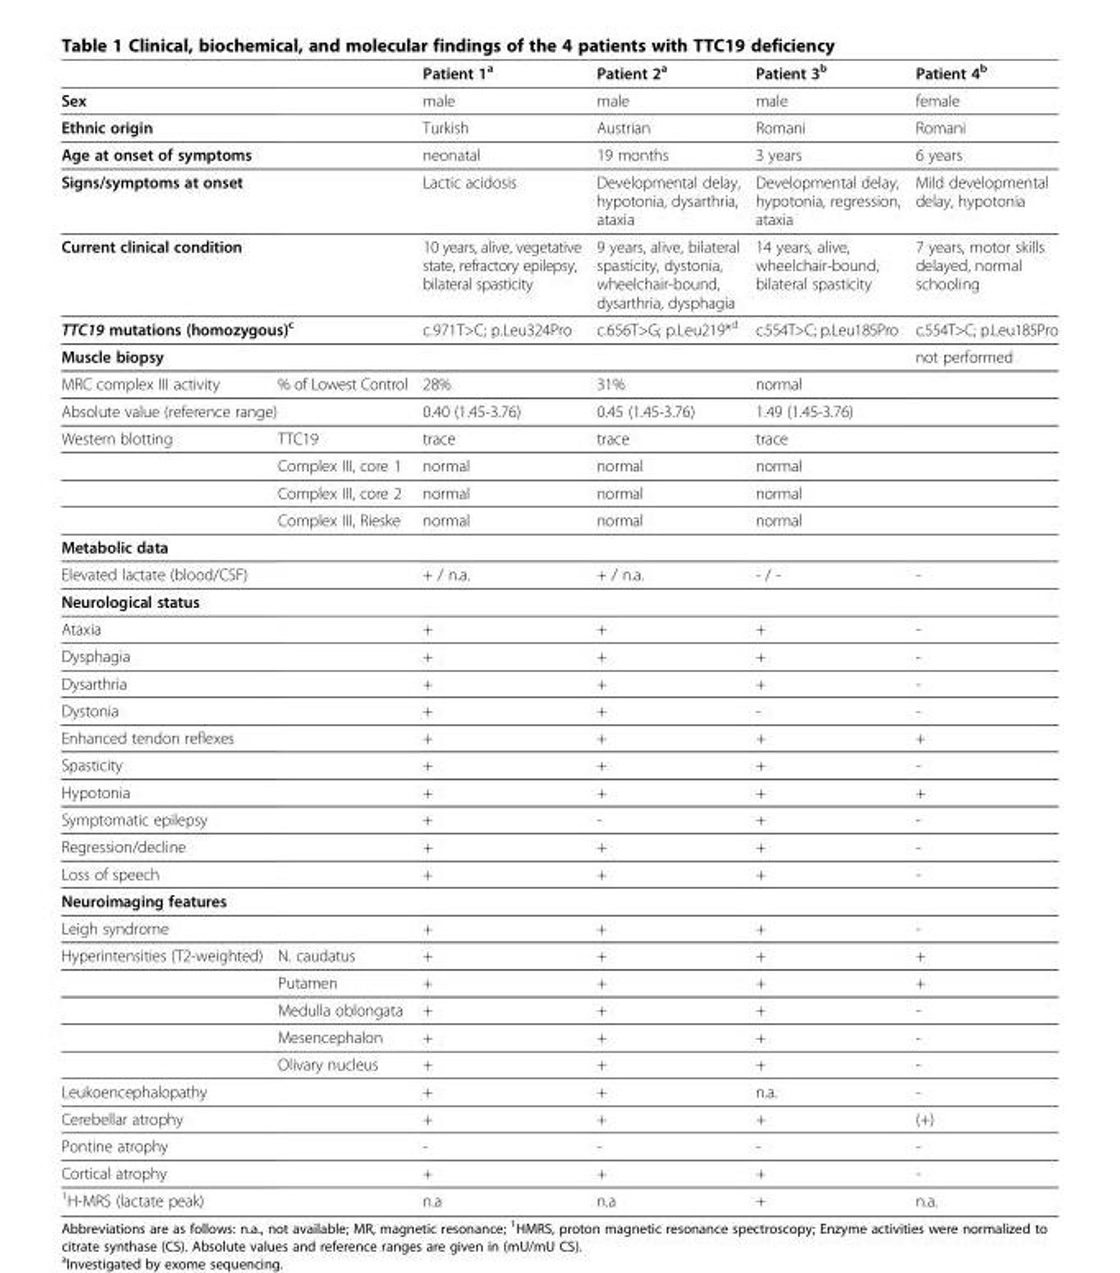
<table><thead><tr><td></td><td></td><td>Patient 1<sup>a</sup></td><td>Patient 2<sup>a</sup></td><td>Patient 3<sup>b</sup></td><td>Patient 4<sup>b</sup></td></tr></thead><tbody><tr><td>Sex</td><td></td><td>male</td><td>male</td><td>male</td><td>female</td></tr><tr><td>Ethnic origin</td><td></td><td>Turkish</td><td>Austrian</td><td>Romani</td><td>Romani</td></tr><tr><td colspan="2">Age at onset of symptoms</td><td>neonatal</td><td>19 months</td><td>3 years</td><td>6 years</td></tr><tr><td>Signs/symptoms at onset</td><td></td><td>Lactic acidosis</td><td>Developmental delay, hypotonia, dysarthria, ataxia</td><td>Developmental delay, hypotonia, regression, ataxia</td><td>Mild developmental delay, hypotonia</td></tr><tr><td>Current clinical condition</td><td></td><td>10 years, alive, vegetative state, refractory epilepsy, bilateral spasticity</td><td>9 years, alive, bilateral spasticity, dystonia, wheelchair-bound, dysarthria, dysphagia</td><td>14 years, alive, wheelchair-bound, bilateral spasticity</td><td>7 years, motor skills delayed, normal schooling</td></tr><tr><td colspan="2">TTC19 mutations (homozygous)<sup>c</sup></td><td>c.971T&gt;C; p.Leu324Pro</td><td>c.656T&gt;G; p.Leu219*<sup>d</sup></td><td>c.554T&gt;C; p.Leu185Pro</td><td>c.554T&gt;C; p.Leu185Pro</td></tr><tr><td>Muscle biopsy</td><td></td><td></td><td></td><td></td><td>not performed</td></tr><tr><td>MRC complex III activity</td><td>% of Lowest Control</td><td>28%</td><td>31%</td><td>normal</td><td></td></tr><tr><td colspan="2">Absolute value (reference range)</td><td>0.40 (1.45-3.76)</td><td>0.45 (1.45-3.76)</td><td>1.49 (1.45-3.76)</td><td></td></tr><tr><td rowspan="4">Western blotting</td><td>TTC19</td><td>trace</td><td>trace</td><td>trace</td><td></td></tr><tr><td>Complex III, core 1</td><td>normal</td><td>normal</td><td>normal</td><td></td></tr><tr><td>Complex III, core 2</td><td>normal</td><td>normal</td><td>normal</td><td></td></tr><tr><td>Complex III, Rieske</td><td>normal</td><td>normal</td><td>normal</td><td></td></tr><tr><td colspan="6">Metabolic data</td></tr><tr><td colspan="2">Elevated lactate (blood/CSF)</td><td>+ / n.a.</td><td>+ / n.a.</td><td>- / -</td><td>-</td></tr><tr><td colspan="6">Neurological status</td></tr><tr><td>Ataxia</td><td></td><td>+</td><td>+</td><td>+</td><td>-</td></tr><tr><td>Dysphagia</td><td></td><td>+</td><td>+</td><td>+</td><td>-</td></tr><tr><td>Dysarthria</td><td></td><td>+</td><td>+</td><td>+</td><td>-</td></tr><tr><td>Dystonia</td><td></td><td>+</td><td>+</td><td>-</td><td>-</td></tr><tr><td>Enhanced tendon reflexes</td><td></td><td>+</td><td>+</td><td>+</td><td>+</td></tr><tr><td>Spasticity</td><td></td><td>+</td><td>+</td><td>+</td><td>-</td></tr><tr><td>Hypotonia</td><td></td><td>+</td><td>+</td><td>+</td><td>+</td></tr><tr><td>Symptomatic epilepsy</td><td></td><td>+</td><td>-</td><td>+</td><td>-</td></tr><tr><td>Regression/decline</td><td></td><td>+</td><td>+</td><td>+</td><td>-</td></tr><tr><td>Loss of speech</td><td></td><td>+</td><td>+</td><td>+</td><td>-</td></tr><tr><td colspan="6">Neuroimaging features</td></tr><tr><td>Leigh syndrome</td><td></td><td>+</td><td>+</td><td>+</td><td>-</td></tr><tr><td rowspan="5">Hyperintensities (T2-weighted)</td><td>N. caudatus</td><td>+</td><td>+</td><td>+</td><td>+</td></tr><tr><td>Putamen</td><td>+</td><td>+</td><td>+</td><td>+</td></tr><tr><td>Medulla oblongata</td><td>+</td><td>+</td><td>+</td><td>-</td></tr><tr><td>Mesencephalon</td><td>+</td><td>+</td><td>+</td><td>-</td></tr><tr><td>Olivary nucleus</td><td>+</td><td>+</td><td>+</td><td>-</td></tr><tr><td>Leukoencephalopathy</td><td></td><td>+</td><td>+</td><td>n.a.</td><td>-</td></tr><tr><td>Cerebellar atrophy</td><td></td><td>+</td><td>+</td><td>+</td><td>(+)</td></tr><tr><td>Pontine atrophy</td><td></td><td>-</td><td>-</td><td>-</td><td>-</td></tr><tr><td>Cortical atrophy</td><td></td><td>+</td><td>+</td><td>+</td><td>-</td></tr><tr><td><sup>1</sup>H-MRS (lactate peak)</td><td></td><td>n.a</td><td>n.a</td><td>+</td><td>n.a.</td></tr></tbody></table>